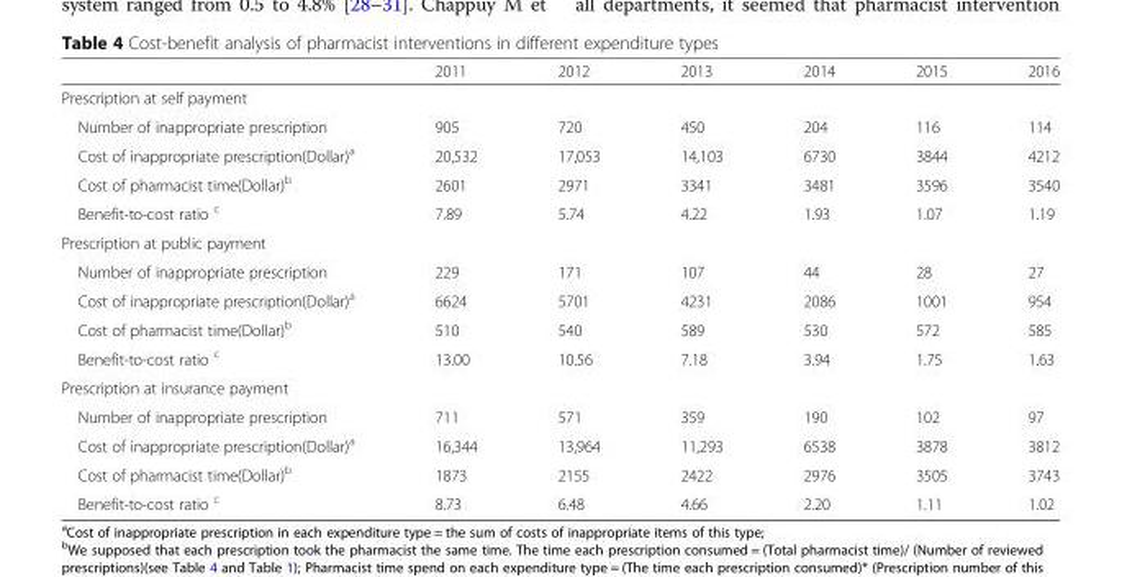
<table><thead><tr><td></td><td>2011</td><td>2012</td><td>2013</td><td>2014</td><td>2015</td><td>2016</td></tr></thead><tbody><tr><td colspan="7">Prescription at self payment</td></tr><tr><td>Number of inappropriate prescription</td><td>905</td><td>720</td><td>450</td><td>204</td><td>116</td><td>114</td></tr><tr><td>Cost of inappropriate prescription(Dollar)<sup>a</sup></td><td>20,532</td><td>17,053</td><td>14,103</td><td>6730</td><td>3844</td><td>4212</td></tr><tr><td>Cost of pharmacist time(Dollar)<sup>b</sup></td><td>2601</td><td>2971</td><td>3341</td><td>3481</td><td>3596</td><td>3540</td></tr><tr><td>Benefit-to-cost ratio <sup>c</sup></td><td>7.89</td><td>5.74</td><td>4.22</td><td>1.93</td><td>1.07</td><td>1.19</td></tr><tr><td colspan="7">Prescription at public payment</td></tr><tr><td>Number of inappropriate prescription</td><td>229</td><td>171</td><td>107</td><td>44</td><td>28</td><td>27</td></tr><tr><td>Cost of inappropriate prescription(Dollar)<sup>a</sup></td><td>6624</td><td>5701</td><td>4231</td><td>2086</td><td>1001</td><td>954</td></tr><tr><td>Cost of pharmacist time(Dollar)<sup>b</sup></td><td>510</td><td>540</td><td>589</td><td>530</td><td>572</td><td>585</td></tr><tr><td>Benefit-to-cost ratio <sup>c</sup></td><td>13.00</td><td>10.56</td><td>7.18</td><td>3.94</td><td>1.75</td><td>1.63</td></tr><tr><td colspan="7">Prescription at insurance payment</td></tr><tr><td>Number of inappropriate prescription</td><td>711</td><td>571</td><td>359</td><td>190</td><td>102</td><td>97</td></tr><tr><td>Cost of inappropriate prescription(Dollar)<sup>a</sup></td><td>16,344</td><td>13,964</td><td>11,293</td><td>6538</td><td>3878</td><td>3812</td></tr><tr><td>Cost of pharmacist time(Dollar)<sup>b</sup></td><td>1873</td><td>2155</td><td>2422</td><td>2976</td><td>3505</td><td>3743</td></tr><tr><td>Benefit-to-cost ratio <sup>c</sup></td><td>8.73</td><td>6.48</td><td>4.66</td><td>2.20</td><td>1.11</td><td>1.02</td></tr></tbody></table>